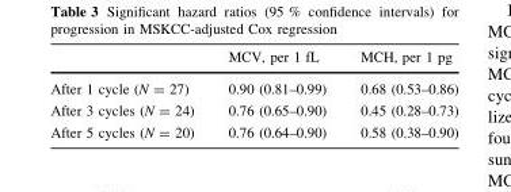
<table><thead><tr><td></td><td>MCV, per 1 fL</td><td>MCH, per 1 pg</td></tr></thead><tbody><tr><td>After 1 cycle (N = 27)</td><td>0.90 (0.81–0.99)</td><td>0.68 (0.53–0.86)</td></tr><tr><td>After 3 cycles (N = 24)</td><td>0.76 (0.65–0.90)</td><td>0.45 (0.28–0.73)</td></tr><tr><td>After 5 cycles (N = 20)</td><td>0.76 (0.64–0.90)</td><td>0.58 (0.38–0.90)</td></tr></tbody></table>